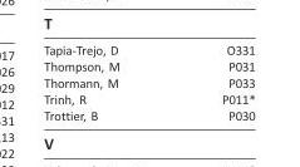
<table><tbody><tr><td>Tapia-Trejo, D</td><td>O331</td></tr><tr><td>Thompson, M</td><td>P031</td></tr><tr><td>Thormann, M</td><td>P033</td></tr><tr><td>Trinh, R</td><td>P011*</td></tr><tr><td>Trottier, B</td><td>P030</td></tr></tbody></table>